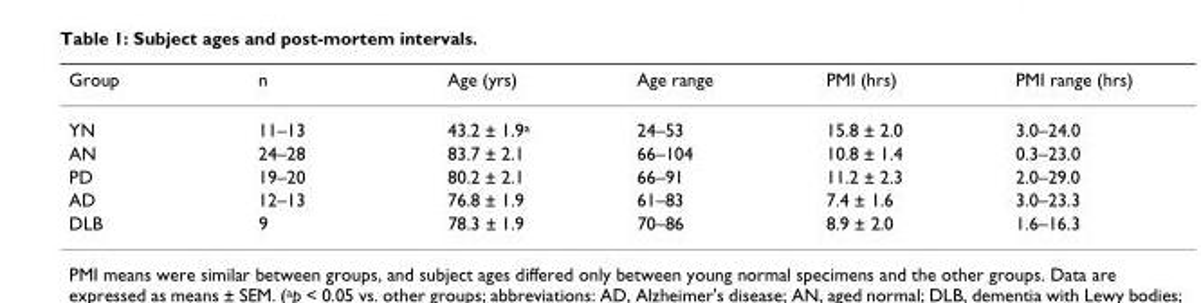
<table><thead><tr><td>Group</td><td>n</td><td>Age (yrs)</td><td>Age range</td><td>PMI (hrs)</td><td>PMI range (hrs)</td></tr></thead><tbody><tr><td>YN</td><td>11–13</td><td>43.2 ± 1.9<sup>a</sup></td><td>24–53</td><td>15.8 ± 2.0</td><td>3.0–24.0</td></tr><tr><td>AN</td><td>24–28</td><td>83.7 ± 2.1</td><td>66–104</td><td>10.8 ± 1.4</td><td>0.3–23.0</td></tr><tr><td>PD</td><td>19–20</td><td>80.2 ± 2.1</td><td>66–91</td><td>11.2 ± 2.3</td><td>2.0–29.0</td></tr><tr><td>AD</td><td>12–13</td><td>76.8 ± 1.9</td><td>61–83</td><td>7.4 ± 1.6</td><td>3.0–23.3</td></tr><tr><td>DLB</td><td>9</td><td>78.3 ± 1.9</td><td>70–86</td><td>8.9 ± 2.0</td><td>1.6–16.3</td></tr></tbody></table>